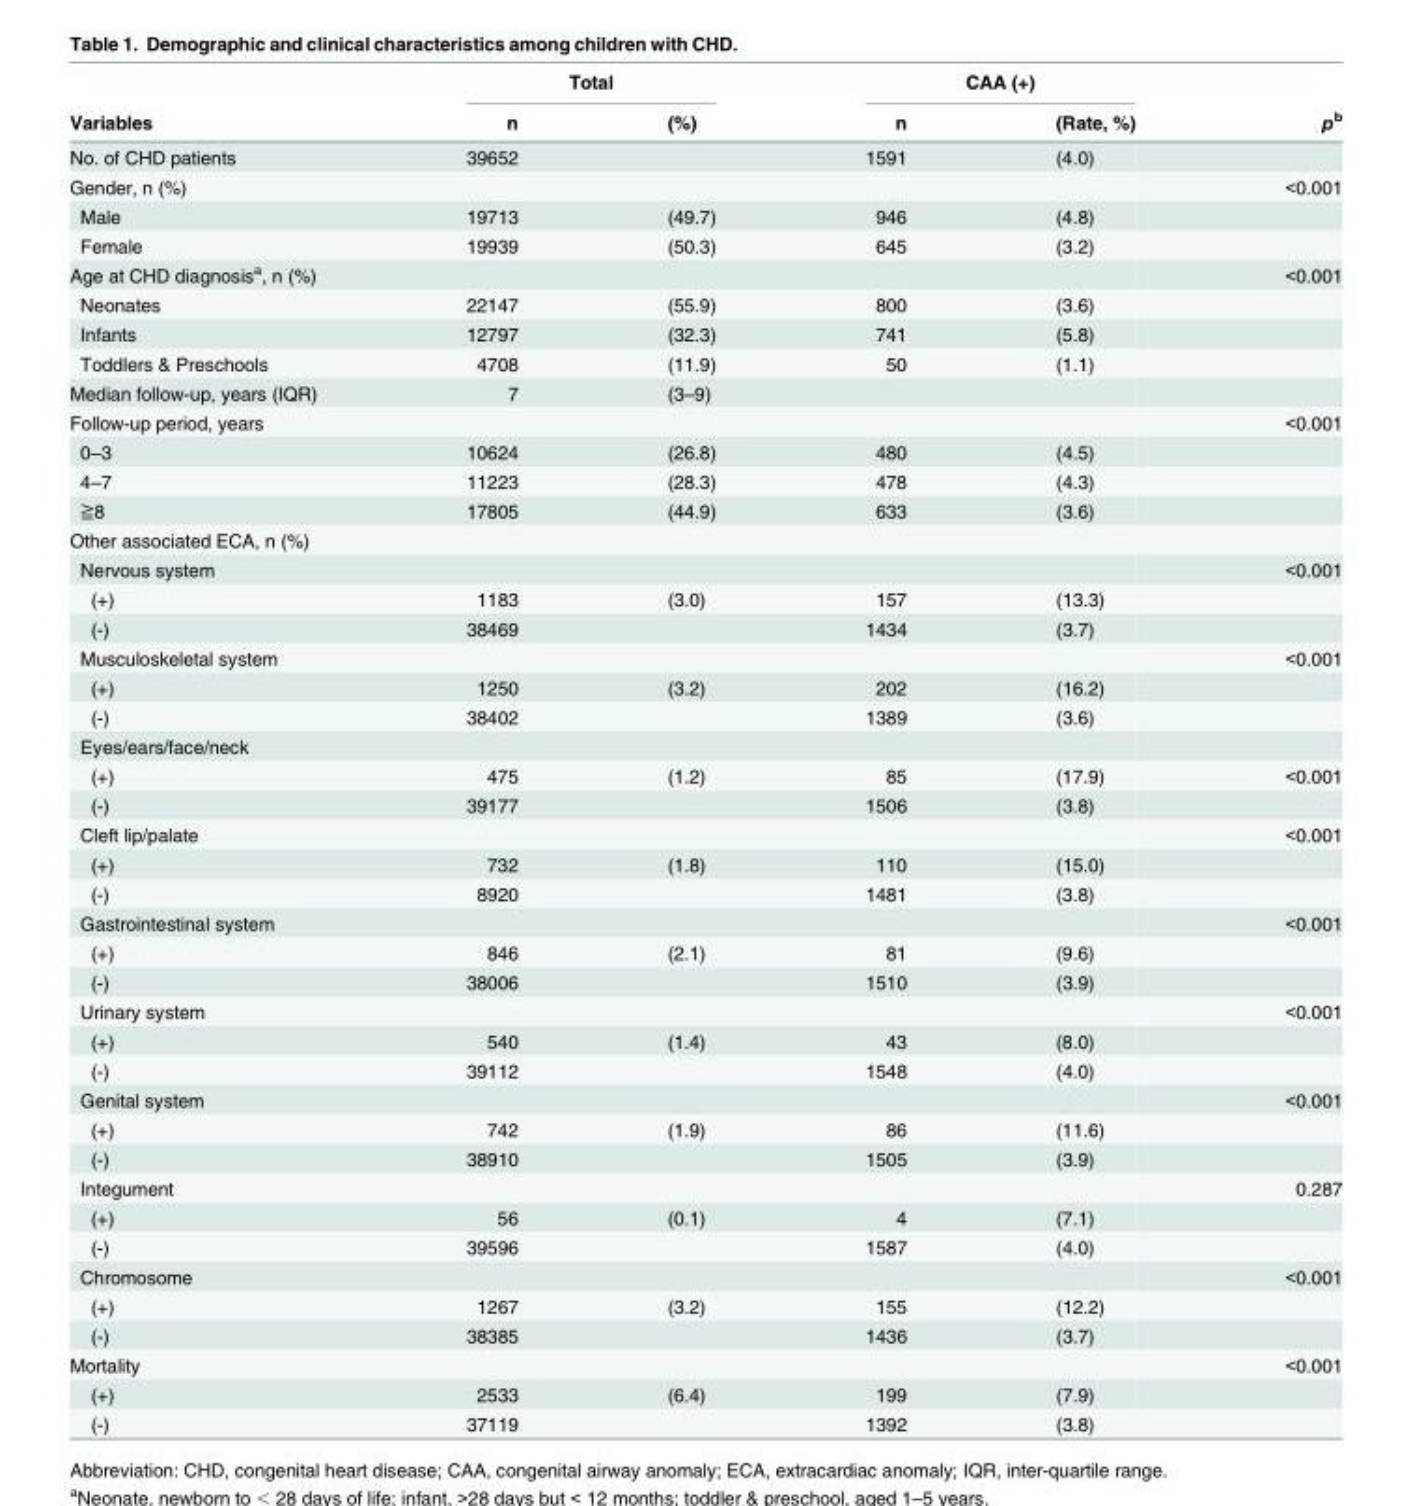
<table><thead><tr><td rowspan="2">Variables</td><td colspan="2">Total</td><td colspan="2">CAA (+)</td><td rowspan="2">p<sup>b</sup></td></tr><tr><td>n</td><td>(%)</td><td>n</td><td>(Rate, %)</td></tr></thead><tbody><tr><td>No. of CHD patients</td><td>39652</td><td></td><td>1591</td><td>(4.0)</td><td></td></tr><tr><td>Gender, n (%)</td><td></td><td></td><td></td><td></td><td>&lt;0.001</td></tr><tr><td>Male</td><td>19713</td><td>(49.7)</td><td>946</td><td>(4.8)</td><td></td></tr><tr><td>Female</td><td>19939</td><td>(50.3)</td><td>645</td><td>(3.2)</td><td></td></tr><tr><td>Age at CHD diagnosis<sup>a</sup>, n (%)</td><td></td><td></td><td></td><td></td><td>&lt;0.001</td></tr><tr><td>Neonates</td><td>22147</td><td>(55.9)</td><td>800</td><td>(3.6)</td><td></td></tr><tr><td>Infants</td><td>12797</td><td>(32.3)</td><td>741</td><td>(5.8)</td><td></td></tr><tr><td>Toddlers &amp; Preschools</td><td>4708</td><td>(11.9)</td><td>50</td><td>(1.1)</td><td></td></tr><tr><td>Median follow-up, years (IQR)</td><td>7</td><td>(3–9)</td><td></td><td></td><td></td></tr><tr><td>Follow-up period, years</td><td></td><td></td><td></td><td></td><td>&lt;0.001</td></tr><tr><td>0–3</td><td>10624</td><td>(26.8)</td><td>480</td><td>(4.5)</td><td></td></tr><tr><td>4–7</td><td>11223</td><td>(28.3)</td><td>478</td><td>(4.3)</td><td></td></tr><tr><td>≧8</td><td>17805</td><td>(44.9)</td><td>633</td><td>(3.6)</td><td></td></tr><tr><td colspan="6">Other associated ECA, n (%)</td></tr><tr><td>Nervous system</td><td></td><td></td><td></td><td></td><td>&lt;0.001</td></tr><tr><td>(+)</td><td>1183</td><td>(3.0)</td><td>157</td><td>(13.3)</td><td></td></tr><tr><td>(-)</td><td>38469</td><td></td><td>1434</td><td>(3.7)</td><td></td></tr><tr><td>Musculoskeletal system</td><td></td><td></td><td></td><td></td><td>&lt;0.001</td></tr><tr><td>(+)</td><td>1250</td><td>(3.2)</td><td>202</td><td>(16.2)</td><td></td></tr><tr><td>(-)</td><td>38402</td><td></td><td>1389</td><td>(3.6)</td><td></td></tr><tr><td colspan="6">Eyes/ears/face/neck</td></tr><tr><td>(+)</td><td>475</td><td>(1.2)</td><td>85</td><td>(17.9)</td><td>&lt;0.001</td></tr><tr><td>(-)</td><td>39177</td><td></td><td>1506</td><td>(3.8)</td><td></td></tr><tr><td>Cleft lip/palate</td><td></td><td></td><td></td><td></td><td>&lt;0.001</td></tr><tr><td>(+)</td><td>732</td><td>(1.8)</td><td>110</td><td>(15.0)</td><td></td></tr><tr><td>(-)</td><td>8920</td><td></td><td>1481</td><td>(3.8)</td><td></td></tr><tr><td>Gastrointestinal system</td><td></td><td></td><td></td><td></td><td>&lt;0.001</td></tr><tr><td>(+)</td><td>846</td><td>(2.1)</td><td>81</td><td>(9.6)</td><td></td></tr><tr><td>(-)</td><td>38006</td><td></td><td>1510</td><td>(3.9)</td><td></td></tr><tr><td>Urinary system</td><td></td><td></td><td></td><td></td><td>&lt;0.001</td></tr><tr><td>(+)</td><td>540</td><td>(1.4)</td><td>43</td><td>(8.0)</td><td></td></tr><tr><td>(-)</td><td>39112</td><td></td><td>1548</td><td>(4.0)</td><td></td></tr><tr><td>Genital system</td><td></td><td></td><td></td><td></td><td>&lt;0.001</td></tr><tr><td>(+)</td><td>742</td><td>(1.9)</td><td>86</td><td>(11.6)</td><td></td></tr><tr><td>(-)</td><td>38910</td><td></td><td>1505</td><td>(3.9)</td><td></td></tr><tr><td>Integument</td><td></td><td></td><td></td><td></td><td>0.287</td></tr><tr><td>(+)</td><td>56</td><td>(0.1)</td><td>4</td><td>(7.1)</td><td></td></tr><tr><td>(-)</td><td>39596</td><td></td><td>1587</td><td>(4.0)</td><td></td></tr><tr><td>Chromosome</td><td></td><td></td><td></td><td></td><td>&lt;0.001</td></tr><tr><td>(+)</td><td>1267</td><td>(3.2)</td><td>155</td><td>(12.2)</td><td></td></tr><tr><td>(-)</td><td>38385</td><td></td><td>1436</td><td>(3.7)</td><td></td></tr><tr><td>Mortality</td><td></td><td></td><td></td><td></td><td>&lt;0.001</td></tr><tr><td>(+)</td><td>2533</td><td>(6.4)</td><td>199</td><td>(7.9)</td><td></td></tr><tr><td>(-)</td><td>37119</td><td></td><td>1392</td><td>(3.8)</td><td></td></tr></tbody></table>